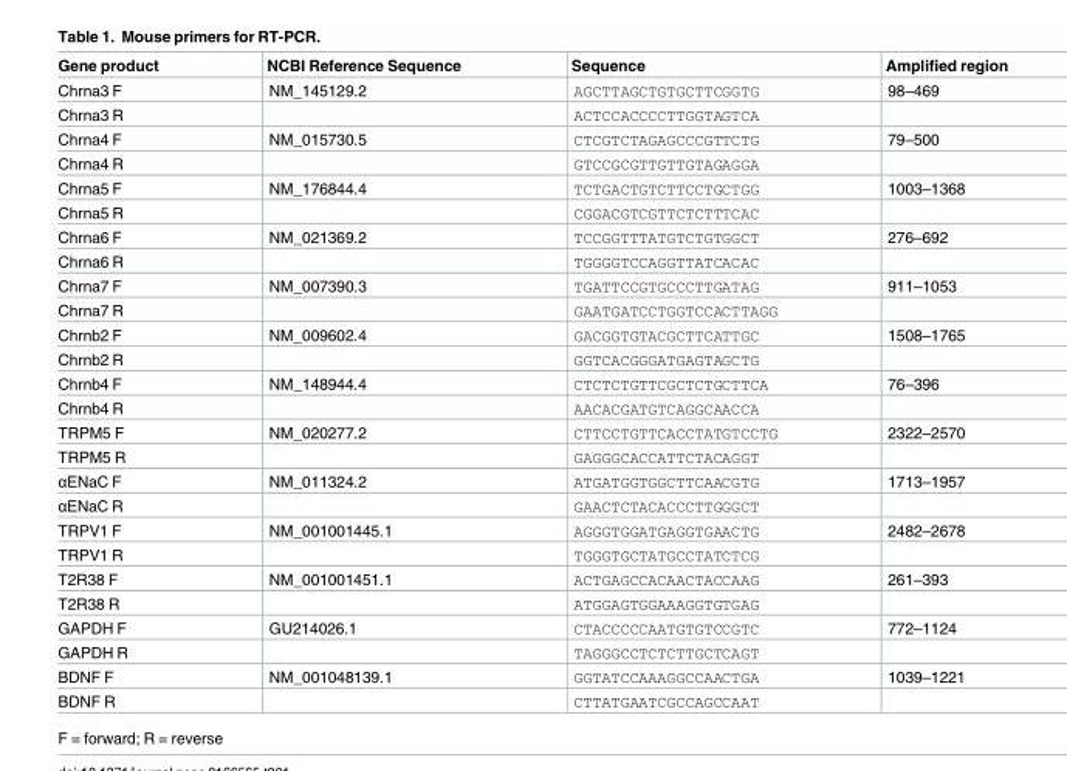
<table><thead><tr><td>Gene product</td><td>NCBI Reference Sequence</td><td>Sequence</td><td>Amplified region</td></tr></thead><tbody><tr><td>Chrna3 F</td><td>NM_145129.2</td><td>AGCTTAGCTGTGCTTCGGTG</td><td>98–469</td></tr><tr><td>Chrna3 R</td><td></td><td>ACTCCACCCCTTGGTAGTCA</td><td></td></tr><tr><td>Chrna4 F</td><td>NM_015730.5</td><td>CTCGTCTAGAGCCCGTTCTG</td><td>79–500</td></tr><tr><td>Chrna4 R</td><td></td><td>GTCCGCGTTGTTGTAGAGGA</td><td></td></tr><tr><td>Chrna5 F</td><td>NM_176844.4</td><td>TCTGACTGTCTTCCTGCTGG</td><td>1003–1368</td></tr><tr><td>Chrna5 R</td><td></td><td>CGGACGTCGTTCTCTTTCAC</td><td></td></tr><tr><td>Chrna6 F</td><td>NM_021369.2</td><td>TCCGGTTTATGTCTGTGGCT</td><td>276–692</td></tr><tr><td>Chrna6 R</td><td></td><td>TGGGGTCCAGGTTATCACAC</td><td></td></tr><tr><td>Chrna7 F</td><td>NM_007390.3</td><td>TGATTCCGTGCCCTTGATAG</td><td>911–1053</td></tr><tr><td>Chrna7 R</td><td></td><td>GAATGATCCTGGTCCACTTAGG</td><td></td></tr><tr><td>Chrnb2 F</td><td>NM_009602.4</td><td>GACGGTGTACGCTTCATTGC</td><td>1508–1765</td></tr><tr><td>Chrnb2 R</td><td></td><td>GGTCACGGGATGAGTAGCTG</td><td></td></tr><tr><td>Chrnb4 F</td><td>NM_148944.4</td><td>CTCTCTGTTCGCTCTGCTTCA</td><td>76–396</td></tr><tr><td>Chrnb4 R</td><td></td><td>AACACGATGTCAGGCAACCA</td><td></td></tr><tr><td>TRPM5 F</td><td>NM_020277.2</td><td>CTTCCTGTTCACCTATGTCCTG</td><td>2322–2570</td></tr><tr><td>TRPM5 R</td><td></td><td>GAGGGCACCATTCTACAGGT</td><td></td></tr><tr><td>αENaC F</td><td>NM_011324.2</td><td>ATGATGGTGGCTTCAACGTG</td><td>1713–1957</td></tr><tr><td>αENaC R</td><td></td><td>GAACTCTACACCCTTGGGCT</td><td></td></tr><tr><td>TRPV1 F</td><td>NM_001001445.1</td><td>AGGGTGGATGAGGTGAACTG</td><td>2482–2678</td></tr><tr><td>TRPV1 R</td><td></td><td>TGGGTGCTATGCCTATCTCG</td><td></td></tr><tr><td>T2R38 F</td><td>NM_001001451.1</td><td>ACTGAGCCACAACTACCAAG</td><td>261–393</td></tr><tr><td>T2R38 R</td><td></td><td>ATGGAGTGGAAAGGTGTGAG</td><td></td></tr><tr><td>GAPDH F</td><td>GU214026.1</td><td>CTACCCCCAATGTGTCCGTC</td><td>772–1124</td></tr><tr><td>GAPDH R</td><td></td><td>TAGGGCCTCTCTTGCTCAGT</td><td></td></tr><tr><td>BDNF F</td><td>NM_001048139.1</td><td>GGTATCCAAAGGCCAACTGA</td><td>1039–1221</td></tr><tr><td>BDNF R</td><td></td><td>CTTATGAATCGCCAGCCAAT</td><td></td></tr></tbody></table>